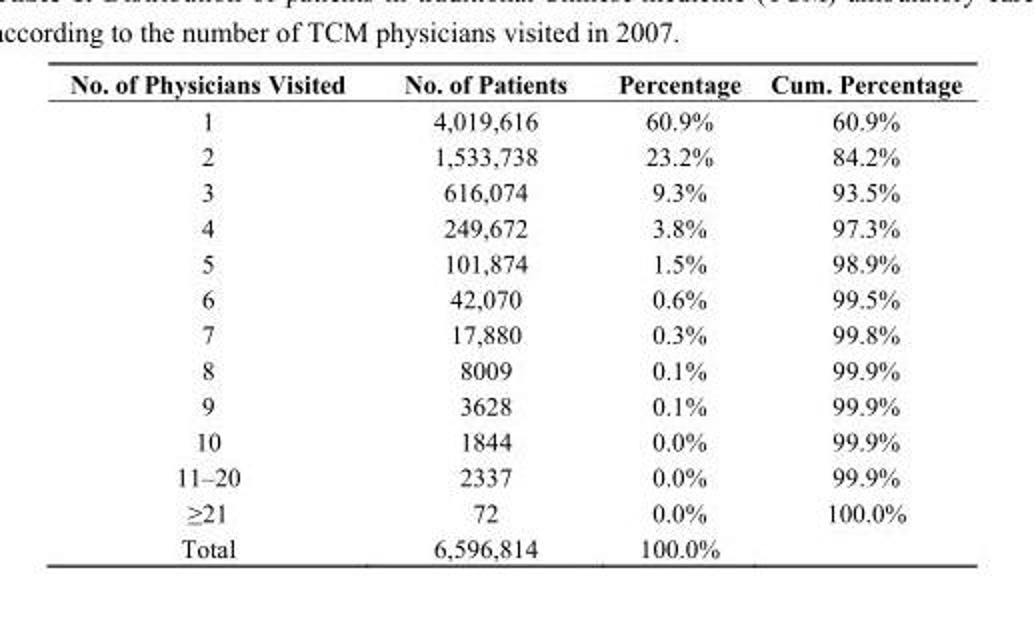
<table><thead><tr><td>No. of Physicians Visited</td><td>No. of Patients</td><td>Percentage</td><td>Cum. Percentage</td></tr></thead><tbody><tr><td>1</td><td>4,019,616</td><td>60.9%</td><td>60.9%</td></tr><tr><td>2</td><td>1,533,738</td><td>23.2%</td><td>84.2%</td></tr><tr><td>3</td><td>616,074</td><td>9.3%</td><td>93.5%</td></tr><tr><td>4</td><td>249,672</td><td>3.8%</td><td>97.3%</td></tr><tr><td>5</td><td>101,874</td><td>1.5%</td><td>98.9%</td></tr><tr><td>6</td><td>42,070</td><td>0.6%</td><td>99.5%</td></tr><tr><td>7</td><td>17,880</td><td>0.3%</td><td>99.8%</td></tr><tr><td>8</td><td>8009</td><td>0.1%</td><td>99.9%</td></tr><tr><td>9</td><td>3628</td><td>0.1%</td><td>99.9%</td></tr><tr><td>10</td><td>1844</td><td>0.0%</td><td>99.9%</td></tr><tr><td>11–20</td><td>2337</td><td>0.0%</td><td>99.9%</td></tr><tr><td>≥21</td><td>72</td><td>0.0%</td><td>100.0%</td></tr><tr><td>Total</td><td>6,596,814</td><td>100.0%</td><td></td></tr></tbody></table>